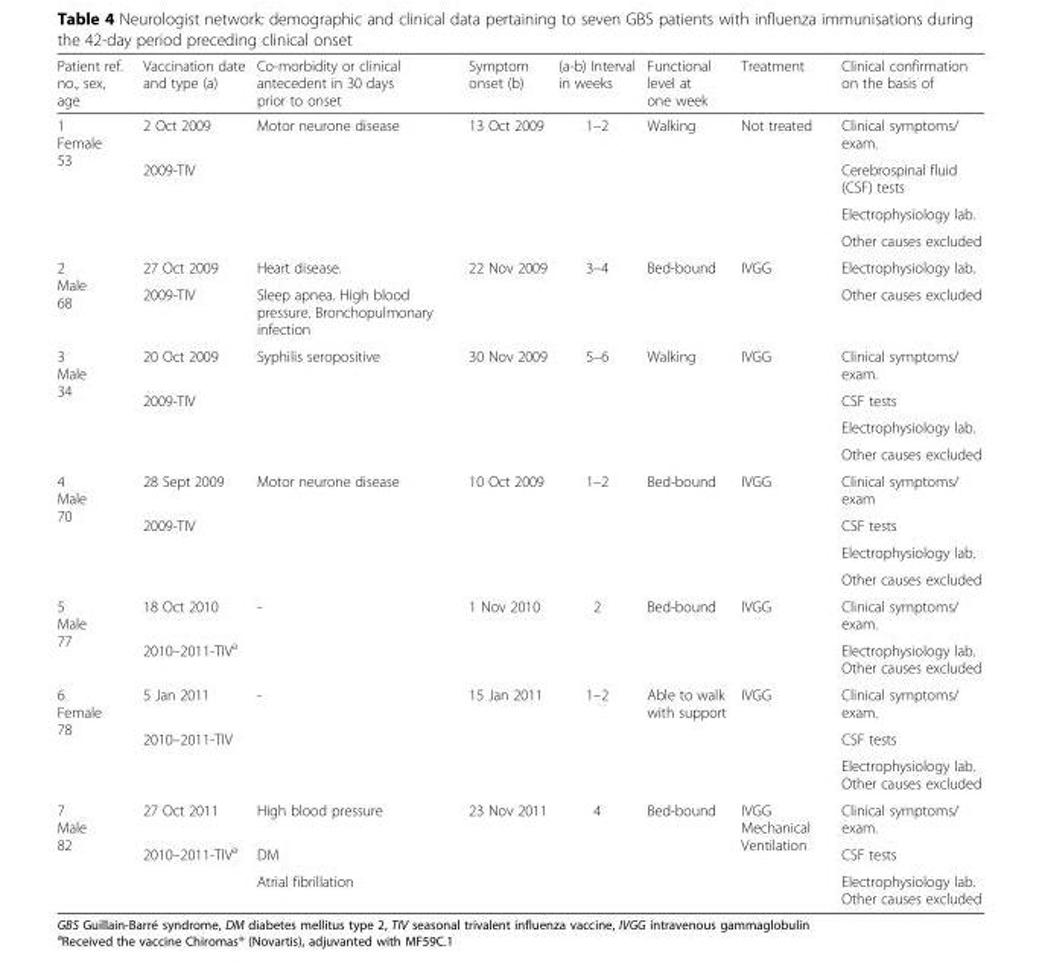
<table><thead><tr><td>Patient ref. no., sex, age</td><td>Vaccination date and type (a)</td><td>Co-morbidity or clinical antecedent in 30 days prior to onset</td><td>Symptom onset (b)</td><td>(a-b) Interval in weeks</td><td>Functional level at one week</td><td>Treatment</td><td>Clinical confirmation on the basis of</td></tr></thead><tbody><tr><td rowspan="4">1 Female 53</td><td>2 Oct 2009</td><td rowspan="4">Motor neurone disease</td><td rowspan="4">13 Oct 2009</td><td rowspan="4">1–2</td><td rowspan="4">Walking</td><td rowspan="4">Not treated</td><td>Clinical symptoms/ exam.</td></tr><tr><td rowspan="3">2009-TIV</td><td>Cerebrospinal fluid (CSF) tests</td></tr><tr><td>Electrophysiology lab.</td></tr><tr><td>Other causes excluded</td></tr><tr><td rowspan="2">2 Male 68</td><td>27 Oct 2009</td><td>Heart disease.</td><td rowspan="2">22 Nov 2009</td><td rowspan="2">3–4</td><td rowspan="2">Bed-bound</td><td rowspan="2">IVGG</td><td>Electrophysiology lab.</td></tr><tr><td>2009-TIV</td><td>Sleep apnea. High blood pressure. Bronchopulmonary infection</td><td>Other causes excluded</td></tr><tr><td rowspan="4">3 Male 34</td><td>20 Oct 2009</td><td rowspan="4">Syphilis seropositive</td><td rowspan="4">30 Nov 2009</td><td rowspan="4">5–6</td><td rowspan="4">Walking</td><td rowspan="4">IVGG</td><td>Clinical symptoms/ exam.</td></tr><tr><td rowspan="3">2009-TIV</td><td>CSF tests</td></tr><tr><td>Electrophysiology lab.</td></tr><tr><td>Other causes excluded</td></tr><tr><td rowspan="4">4 Male 70</td><td>28 Sept 2009</td><td rowspan="4">Motor neurone disease</td><td rowspan="4">10 Oct 2009</td><td rowspan="4">1–2</td><td rowspan="4">Bed-bound</td><td rowspan="4">IVGG</td><td>Clinical symptoms/ exam</td></tr><tr><td rowspan="3">2009-TIV</td><td>CSF tests</td></tr><tr><td>Electrophysiology lab.</td></tr><tr><td>Other causes excluded</td></tr><tr><td rowspan="2">5 Male 77</td><td>18 Oct 2010</td><td rowspan="2">-</td><td rowspan="2">1 Nov 2010</td><td rowspan="2">2</td><td rowspan="2">Bed-bound</td><td rowspan="2">IVGG</td><td>Clinical symptoms/ exam.</td></tr><tr><td>2010–2011-TIV<sup>a</sup></td><td>Electrophysiology lab. Other causes excluded</td></tr><tr><td rowspan="3">6 Female 78</td><td>5 Jan 2011</td><td rowspan="3">-</td><td rowspan="3">15 Jan 2011</td><td rowspan="3">1–2</td><td rowspan="3">Able to walk with support</td><td rowspan="3">IVGG</td><td>Clinical symptoms/ exam.</td></tr><tr><td rowspan="2">2010–2011-TIV</td><td>CSF tests</td></tr><tr><td>Electrophysiology lab. Other causes excluded</td></tr><tr><td rowspan="3">7 Male 82</td><td>27 Oct 2011</td><td>High blood pressure</td><td rowspan="3">23 Nov 2011</td><td rowspan="3">4</td><td rowspan="3">Bed-bound</td><td rowspan="3">IVGG Mechanical Ventilation</td><td>Clinical symptoms/ exam.</td></tr><tr><td rowspan="2">2010–2011-TIV<sup>a</sup></td><td>DM</td><td>CSF tests</td></tr><tr><td>Atrial fibrillation</td><td>Electrophysiology lab. Other causes excluded</td></tr></tbody></table>